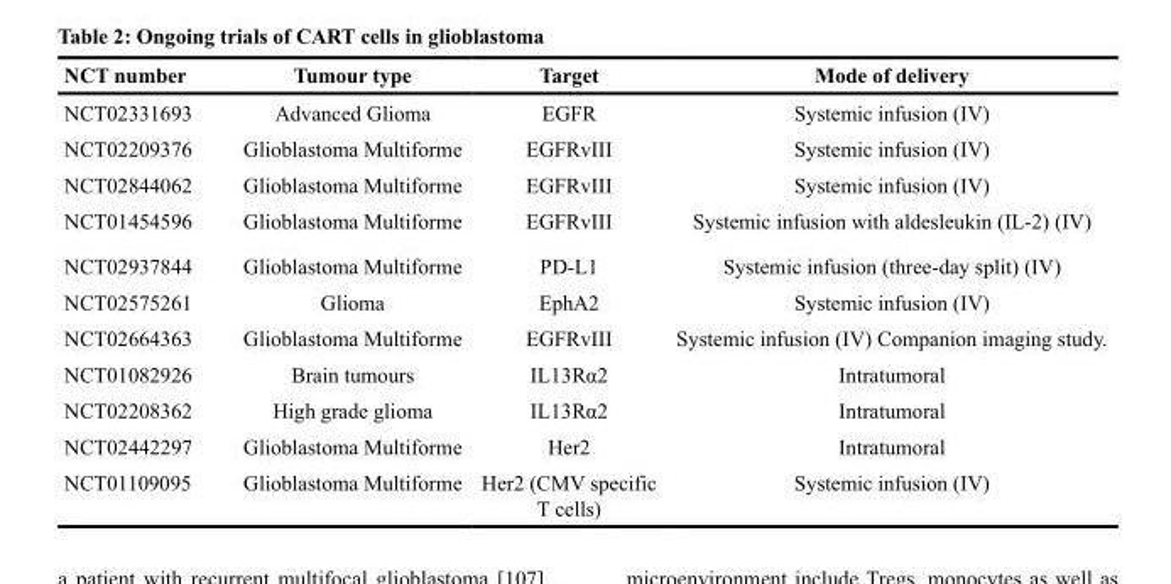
<table><thead><tr><td>NCT number</td><td>Tumour type</td><td>Target</td><td>Mode of delivery</td></tr></thead><tbody><tr><td>NCT02331693</td><td>Advanced Glioma</td><td>EGFR</td><td>Systemic infusion (IV)</td></tr><tr><td>NCT02209376</td><td>Glioblastoma Multiforme</td><td>EGFRvIII</td><td>Systemic infusion (IV)</td></tr><tr><td>NCT02844062</td><td>Glioblastoma Multiforme</td><td>EGFRvIII</td><td>Systemic infusion (IV)</td></tr><tr><td>NCT01454596</td><td>Glioblastoma Multiforme</td><td>EGFRvIII</td><td>Systemic infusion with aldesleukin (IL-2) (IV)</td></tr><tr><td>NCT02937844</td><td>Glioblastoma Multiforme</td><td>PD-L1</td><td>Systemic infusion (three-day split) (IV)</td></tr><tr><td>NCT02575261</td><td>Glioma</td><td>EphA2</td><td>Systemic infusion (IV)</td></tr><tr><td>NCT02664363</td><td>Glioblastoma Multiforme</td><td>EGFRvIII</td><td>Systemic infusion (IV) Companion imaging study.</td></tr><tr><td>NCT01082926</td><td>Brain tumours</td><td>IL13Rα2</td><td>Intratumoral</td></tr><tr><td>NCT02208362</td><td>High grade glioma</td><td>IL13Rα2</td><td>Intratumoral</td></tr><tr><td>NCT02442297</td><td>Glioblastoma Multiforme</td><td>Her2</td><td>Intratumoral</td></tr><tr><td>NCT01109095</td><td>Glioblastoma Multiforme</td><td>Her2 (CMV specific T cells)</td><td>Systemic infusion (IV)</td></tr></tbody></table>